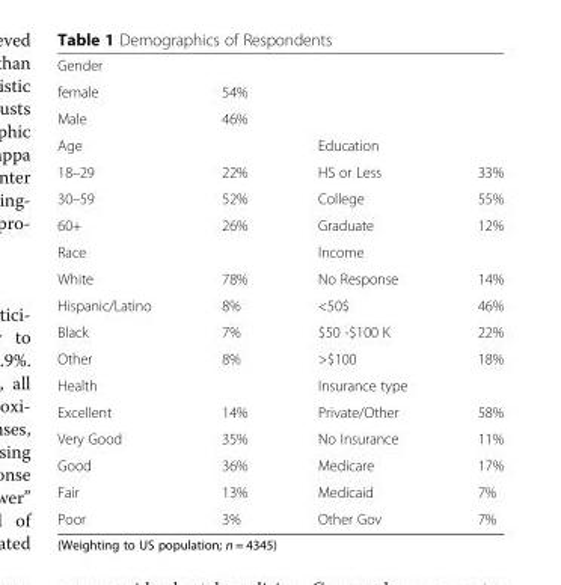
<table><tbody><tr><td colspan="4">Gender</td></tr><tr><td>female</td><td>54%</td><td rowspan="2" colspan="2"></td></tr><tr><td>Male</td><td>46%</td></tr><tr><td>Age</td><td></td><td>Education</td><td></td></tr><tr><td>18–29</td><td>22%</td><td>HS or Less</td><td>33%</td></tr><tr><td>30–59</td><td>52%</td><td>College</td><td>55%</td></tr><tr><td>60+</td><td>26%</td><td>Graduate</td><td>12%</td></tr><tr><td>Race</td><td></td><td>lncome</td><td></td></tr><tr><td>White</td><td>78%</td><td>No Response</td><td>14%</td></tr><tr><td>Hispanic/Latino</td><td>8%</td><td>&lt;50$</td><td>46%</td></tr><tr><td>Black</td><td>7%</td><td>$50 -$100 K</td><td>22%</td></tr><tr><td>Other</td><td>8%</td><td>&gt;$100</td><td>18%</td></tr><tr><td>Health</td><td></td><td>Insurance type</td><td></td></tr><tr><td>Excellent</td><td>14%</td><td>Private/Other</td><td>58%</td></tr><tr><td>Very Good</td><td>35%</td><td>No Insurance</td><td>11%</td></tr><tr><td>Good</td><td>36%</td><td>Medicare</td><td>17%</td></tr><tr><td>Fair</td><td>13%</td><td>Medicaid</td><td>7%</td></tr><tr><td>Poor</td><td>3%</td><td>Other Gov</td><td>7%</td></tr></tbody></table>